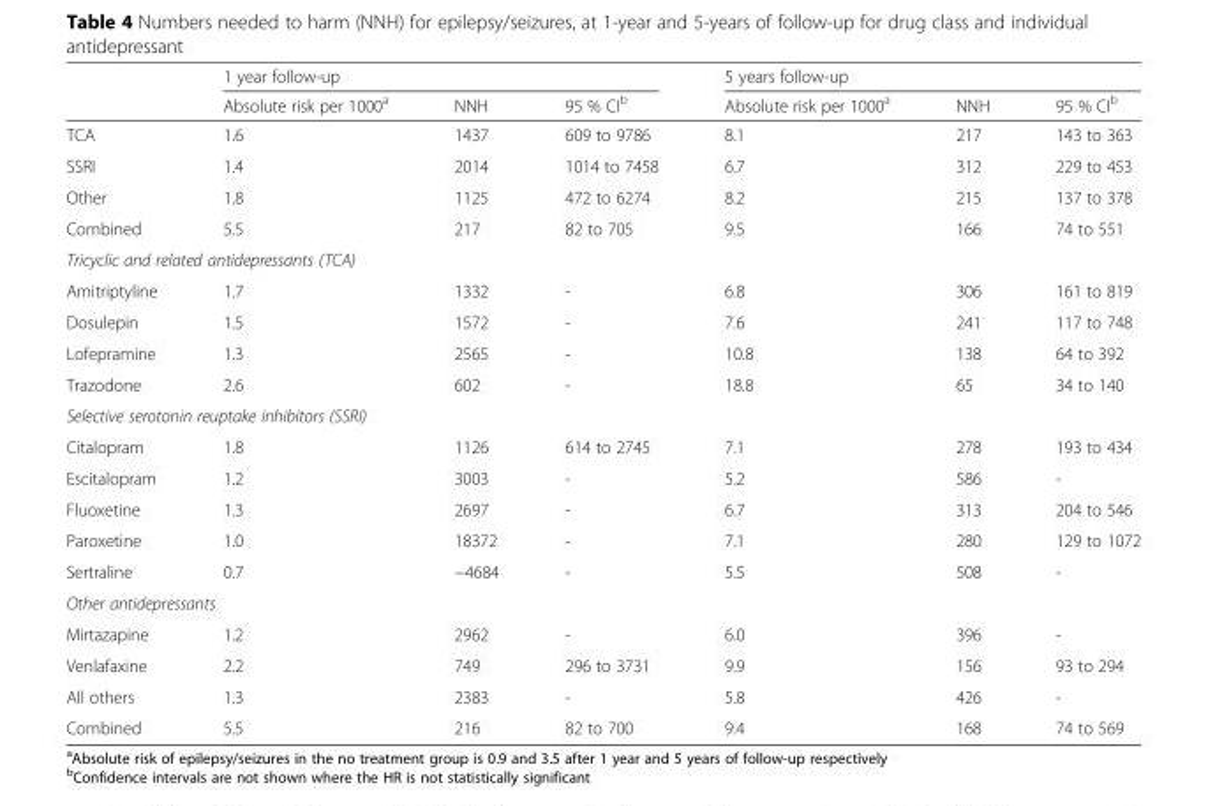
<table><thead><tr><td rowspan="2"></td><td colspan="3">1 year follow-up</td><td colspan="3">5 years follow-up</td></tr><tr><td>Absolute risk per 1000<sup>a</sup></td><td>NNH</td><td>95 % CI<sup>b</sup></td><td>Absolute risk per 1000<sup>a</sup></td><td>NNH</td><td>95 % CI<sup>b</sup></td></tr></thead><tbody><tr><td>TCA</td><td>1.6</td><td>1437</td><td>609 to 9786</td><td>8.1</td><td>217</td><td>143 to 363</td></tr><tr><td>SSRI</td><td>1.4</td><td>2014</td><td>1014 to 7458</td><td>6.7</td><td>312</td><td>229 to 453</td></tr><tr><td>Other</td><td>1.8</td><td>1125</td><td>472 to 6274</td><td>8.2</td><td>215</td><td>137 to 378</td></tr><tr><td>Combined</td><td>5.5</td><td>217</td><td>82 to 705</td><td>9.5</td><td>166</td><td>74 to 551</td></tr><tr><td colspan="7">Tricyclic and related antidepressants (TCA)</td></tr><tr><td>Amitriptyline</td><td>1.7</td><td>1332</td><td>-</td><td>6.8</td><td>306</td><td>161 to 819</td></tr><tr><td>Dosulepin</td><td>1.5</td><td>1572</td><td>-</td><td>7.6</td><td>241</td><td>117 to 748</td></tr><tr><td>Lofepramine</td><td>1.3</td><td>2565</td><td>-</td><td>10.8</td><td>138</td><td>64 to 392</td></tr><tr><td>Trazodone</td><td>2.6</td><td>602</td><td>-</td><td>18.8</td><td>65</td><td>34 to 140</td></tr><tr><td colspan="7">Selective serotonin reuptake inhibitors (SSRI)</td></tr><tr><td>Citalopram</td><td>1.8</td><td>1126</td><td>614 to 2745</td><td>7.1</td><td>278</td><td>193 to 434</td></tr><tr><td>Escitalopram</td><td>1.2</td><td>3003</td><td>-</td><td>5.2</td><td>586</td><td>-</td></tr><tr><td>Fluoxetine</td><td>1.3</td><td>2697</td><td>-</td><td>6.7</td><td>313</td><td>204 to 546</td></tr><tr><td>Paroxetine</td><td>1.0</td><td>18372</td><td>-</td><td>7.1</td><td>280</td><td>129 to 1072</td></tr><tr><td>Sertraline</td><td>0.7</td><td>−4684</td><td>-</td><td>5.5</td><td>508</td><td>-</td></tr><tr><td colspan="7">Other antidepressants</td></tr><tr><td>Mirtazapine</td><td>1.2</td><td>2962</td><td>-</td><td>6.0</td><td>396</td><td>-</td></tr><tr><td>Venlafaxine</td><td>2.2</td><td>749</td><td>296 to 3731</td><td>9.9</td><td>156</td><td>93 to 294</td></tr><tr><td>All others</td><td>1.3</td><td>2383</td><td>-</td><td>5.8</td><td>426</td><td>-</td></tr><tr><td>Combined</td><td>5.5</td><td>216</td><td>82 to 700</td><td>9.4</td><td>168</td><td>74 to 569</td></tr></tbody></table>